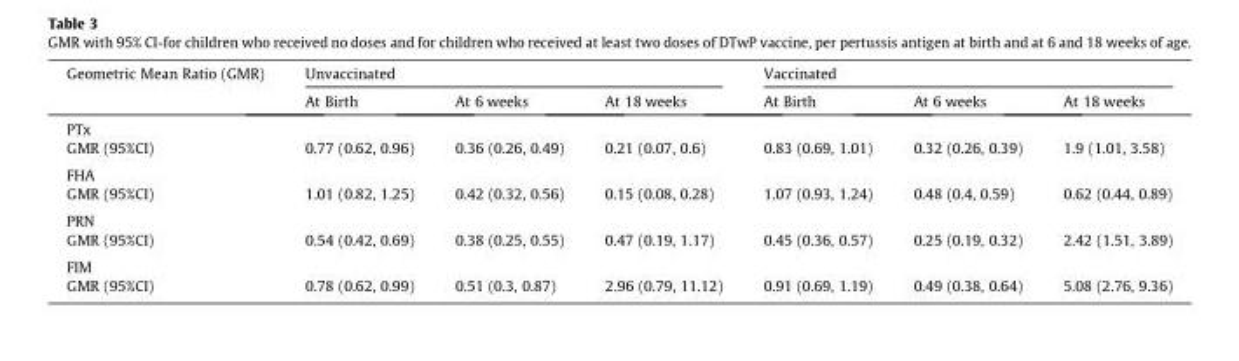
<table><thead><tr><td rowspan="2">Geometric Mean Ratio (GMR)</td><td colspan="3">Unvaccinated</td><td colspan="3">Vaccinated</td></tr><tr><td>At Birth</td><td>At 6 weeks</td><td>At 18 weeks</td><td>At Birth</td><td>At 6 weeks</td><td>At 18 weeks</td></tr></thead><tbody><tr><td colspan="7">PTx</td></tr><tr><td>GMR (95%CI)</td><td>0.77 (0.62, 0.96)</td><td>0.36 (0.26, 0.49)</td><td>0.21 (0.07, 0.6)</td><td>0.83 (0.69, 1.01)</td><td>0.32 (0.26, 0.39)</td><td>1.9 (1.01, 3.58)</td></tr><tr><td colspan="7">FHA</td></tr><tr><td>GMR (95%CI)</td><td>1.01 (0.82, 1.25)</td><td>0.42 (0.32, 0.56)</td><td>0.15 (0.08, 0.28)</td><td>1.07 (0.93, 1.24)</td><td>0.48 (0.4, 0.59)</td><td>0.62 (0.44, 0.89)</td></tr><tr><td colspan="7">PRN</td></tr><tr><td>GMR (95%CI)</td><td>0.54 (0.42, 0.69)</td><td>0.38 (0.25, 0.55)</td><td>0.47 (0.19, 1.17)</td><td>0.45 (0.36, 0.57)</td><td>0.25 (0.19, 0.32)</td><td>2.42 (1.51, 3.89)</td></tr><tr><td colspan="7">FIM</td></tr><tr><td>GMR (95%CI)</td><td>0.78 (0.62, 0.99)</td><td>0.51 (0.3, 0.87)</td><td>2.96 (0.79, 11.12)</td><td>0.91 (0.69, 1.19)</td><td>0.49 (0.38, 0.64)</td><td>5.08 (2.76, 9.36)</td></tr></tbody></table>